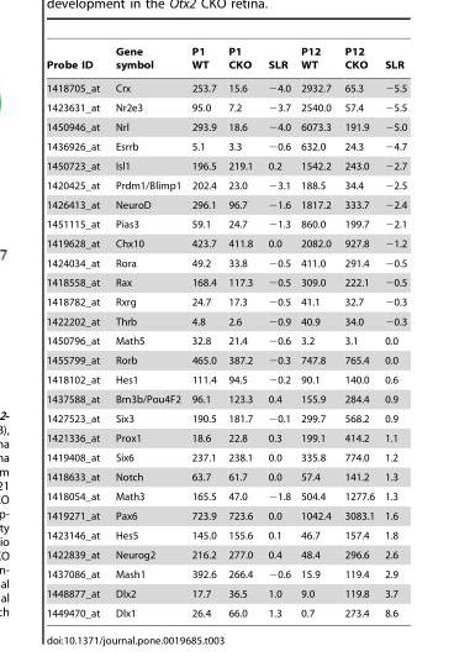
<table><thead><tr><td>Probe ID</td><td>Gene symbol</td><td>P1 WT</td><td>P1 CKO</td><td>SLR</td><td>P12 WT</td><td>P12 CKO</td><td>SLR</td></tr></thead><tbody><tr><td>1418705_at</td><td>Crx</td><td>253.7</td><td>15.6</td><td>−4.0</td><td>2932.7</td><td>65.3</td><td>−5.5</td></tr><tr><td>1423631_at</td><td>Nr2e3</td><td>95.0</td><td>7.2</td><td>−3.7</td><td>2540.0</td><td>57.4</td><td>−5.5</td></tr><tr><td>1450946_at</td><td>Nrl</td><td>293.9</td><td>18.6</td><td>−4.0</td><td>6073.3</td><td>191.9</td><td>−5.0</td></tr><tr><td>1436926_at</td><td>Esrrb</td><td>5.1</td><td>3.3</td><td>−0.6</td><td>632.0</td><td>24.3</td><td>−4.7</td></tr><tr><td>1450723_at</td><td>Isl1</td><td>196.5</td><td>219.1</td><td>0.2</td><td>1542.2</td><td>243.0</td><td>−2.7</td></tr><tr><td>1420425_at</td><td>Prdm1/Blimp1</td><td>202.4</td><td>23.0</td><td>−3.1</td><td>188.5</td><td>34.4</td><td>−2.5</td></tr><tr><td>1426413_at</td><td>NeuroD</td><td>296.1</td><td>96.7</td><td>−1.6</td><td>1817.2</td><td>333.7</td><td>−2.4</td></tr><tr><td>1451115_at</td><td>Pias3</td><td>59.1</td><td>24.7</td><td>−1.3</td><td>860.0</td><td>199.7</td><td>−2.1</td></tr><tr><td>1419628_at</td><td>Chx10</td><td>423.7</td><td>411.8</td><td>0.0</td><td>2082.0</td><td>927.8</td><td>−1.2</td></tr><tr><td>1424034_at</td><td>Rora</td><td>49.2</td><td>33.8</td><td>−0.5</td><td>411.0</td><td>291.4</td><td>−0.5</td></tr><tr><td>1418558_at</td><td>Rax</td><td>168.4</td><td>117.3</td><td>−0.5</td><td>309.0</td><td>222.1</td><td>−0.5</td></tr><tr><td>1418782_at</td><td>Rxrg</td><td>24.7</td><td>17.3</td><td>−0.5</td><td>41.1</td><td>32.7</td><td>−0.3</td></tr><tr><td>1422202_at</td><td>Thrb</td><td>4.8</td><td>2.6</td><td>−0.9</td><td>40.9</td><td>34.0</td><td>−0.3</td></tr><tr><td>1450796_at</td><td>Math5</td><td>32.8</td><td>21.4</td><td>−0.6</td><td>3.2</td><td>3.1</td><td>0.0</td></tr><tr><td>1455799_at</td><td>Rorb</td><td>465.0</td><td>387.2</td><td>−0.3</td><td>747.8</td><td>765.4</td><td>0.0</td></tr><tr><td>1418102_at</td><td>Hes1</td><td>111.4</td><td>94.5</td><td>−0.2</td><td>90.1</td><td>140.0</td><td>0.6</td></tr><tr><td>1437588_at</td><td>Brn3b/Pou4F2</td><td>96.1</td><td>123.3</td><td>0.4</td><td>155.9</td><td>284.4</td><td>0.9</td></tr><tr><td>1427523_at</td><td>Six3</td><td>190.5</td><td>181.7</td><td>−0.1</td><td>299.7</td><td>568.2</td><td>0.9</td></tr><tr><td>1421336_at</td><td>Prox1</td><td>18.6</td><td>22.8</td><td>0.3</td><td>199.1</td><td>414.2</td><td>1.1</td></tr><tr><td>1419408_at</td><td>Six6</td><td>237.1</td><td>238.1</td><td>0.0</td><td>335.8</td><td>774.0</td><td>1.2</td></tr><tr><td>1418633_at</td><td>Notch</td><td>63.7</td><td>61.7</td><td>0.0</td><td>57.4</td><td>141.2</td><td>1.3</td></tr><tr><td>1418054_at</td><td>Math3</td><td>165.5</td><td>47.0</td><td>−1.8</td><td>504.4</td><td>1277.6</td><td>1.3</td></tr><tr><td>1419271_at</td><td>Pax6</td><td>723.9</td><td>723.6</td><td>0.0</td><td>1042.4</td><td>3083.1</td><td>1.6</td></tr><tr><td>1423146_at</td><td>Hes5</td><td>145.0</td><td>155.6</td><td>0.1</td><td>46.7</td><td>157.4</td><td>1.8</td></tr><tr><td>1422839_at</td><td>Neurog2</td><td>216.2</td><td>277.0</td><td>0.4</td><td>48.4</td><td>296.6</td><td>2.6</td></tr><tr><td>1437086_at</td><td>Mash1</td><td>392.6</td><td>266.4</td><td>−0.6</td><td>15.9</td><td>119.4</td><td>2.9</td></tr><tr><td>1448877_at</td><td>Dlx2</td><td>17.7</td><td>36.5</td><td>1.0</td><td>9.0</td><td>119.8</td><td>3.7</td></tr><tr><td>1449470_at</td><td>Dlx1</td><td>26.4</td><td>66.0</td><td>1.3</td><td>0.7</td><td>273.4</td><td>8.6</td></tr></tbody></table>